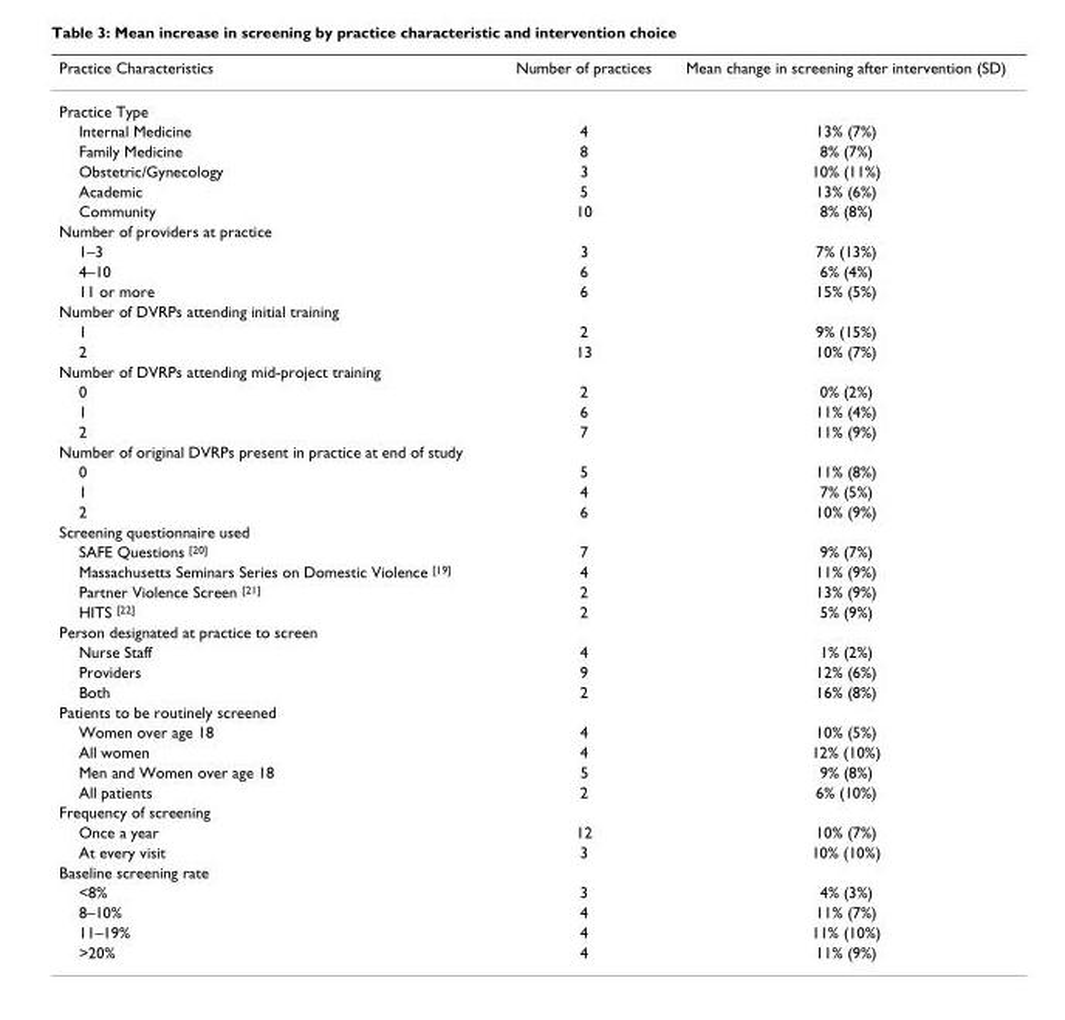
<table><thead><tr><td>Practice Characteristics</td><td>Number of practices</td><td>Mean change in screening after intervention (SD)</td></tr></thead><tbody><tr><td colspan="3">Practice Type</td></tr><tr><td>Internal Medicine</td><td>4</td><td>13% (7%)</td></tr><tr><td>Family Medicine</td><td>8</td><td>8% (7%)</td></tr><tr><td>Obstetric/Gynecology</td><td>3</td><td>10% (11%)</td></tr><tr><td>Academic</td><td>5</td><td>13% (6%)</td></tr><tr><td>Community</td><td>10</td><td>8% (8%)</td></tr><tr><td colspan="3">Number of providers at practice</td></tr><tr><td>1–3</td><td>3</td><td>7% (13%)</td></tr><tr><td>4–10</td><td>6</td><td>6% (4%)</td></tr><tr><td>11 or more</td><td>6</td><td>15% (5%)</td></tr><tr><td colspan="3">Number of DVRPs attending initial training</td></tr><tr><td>1</td><td>2</td><td>9% (15%)</td></tr><tr><td>2</td><td>13</td><td>10% (7%)</td></tr><tr><td colspan="3">Number of DVRPs attending mid-project training</td></tr><tr><td>0</td><td>2</td><td>0% (2%)</td></tr><tr><td>1</td><td>6</td><td>11% (4%)</td></tr><tr><td>2</td><td>7</td><td>11% (9%)</td></tr><tr><td colspan="3">Number of original DVRPs present in practice at end of study</td></tr><tr><td>0</td><td>5</td><td>11% (8%)</td></tr><tr><td>1</td><td>4</td><td>7% (5%)</td></tr><tr><td>2</td><td>6</td><td>10% (9%)</td></tr><tr><td colspan="3">Screening questionnaire used</td></tr><tr><td>SAFE Questions <sup>[20]</sup></td><td>7</td><td>9% (7%)</td></tr><tr><td>Massachusetts Seminars Series on Domestic Violence <sup>[19]</sup></td><td>4</td><td>11% (9%)</td></tr><tr><td>Partner Violence Screen <sup>[21]</sup></td><td>2</td><td>13% (9%)</td></tr><tr><td>HITS <sup>[22]</sup></td><td>2</td><td>5% (9%)</td></tr><tr><td colspan="3">Person designated at practice to screen</td></tr><tr><td>Nurse Staff</td><td>4</td><td>1% (2%)</td></tr><tr><td>Providers</td><td>9</td><td>12% (6%)</td></tr><tr><td>Both</td><td>2</td><td>16% (8%)</td></tr><tr><td colspan="3">Patients to be routinely screened</td></tr><tr><td>Women over age 18</td><td>4</td><td>10% (5%)</td></tr><tr><td>All women</td><td>4</td><td>12% (10%)</td></tr><tr><td>Men and Women over age 18</td><td>5</td><td>9% (8%)</td></tr><tr><td>All patients</td><td>2</td><td>6% (10%)</td></tr><tr><td colspan="3">Frequency of screening</td></tr><tr><td>Once a year</td><td>12</td><td>10% (7%)</td></tr><tr><td>At every visit</td><td>3</td><td>10% (10%)</td></tr><tr><td colspan="3">Baseline screening rate</td></tr><tr><td>&lt;8%</td><td>3</td><td>4% (3%)</td></tr><tr><td>8–10%</td><td>4</td><td>11% (7%)</td></tr><tr><td>11–19%</td><td>4</td><td>11% (10%)</td></tr><tr><td>&gt;20%</td><td>4</td><td>11% (9%)</td></tr></tbody></table>